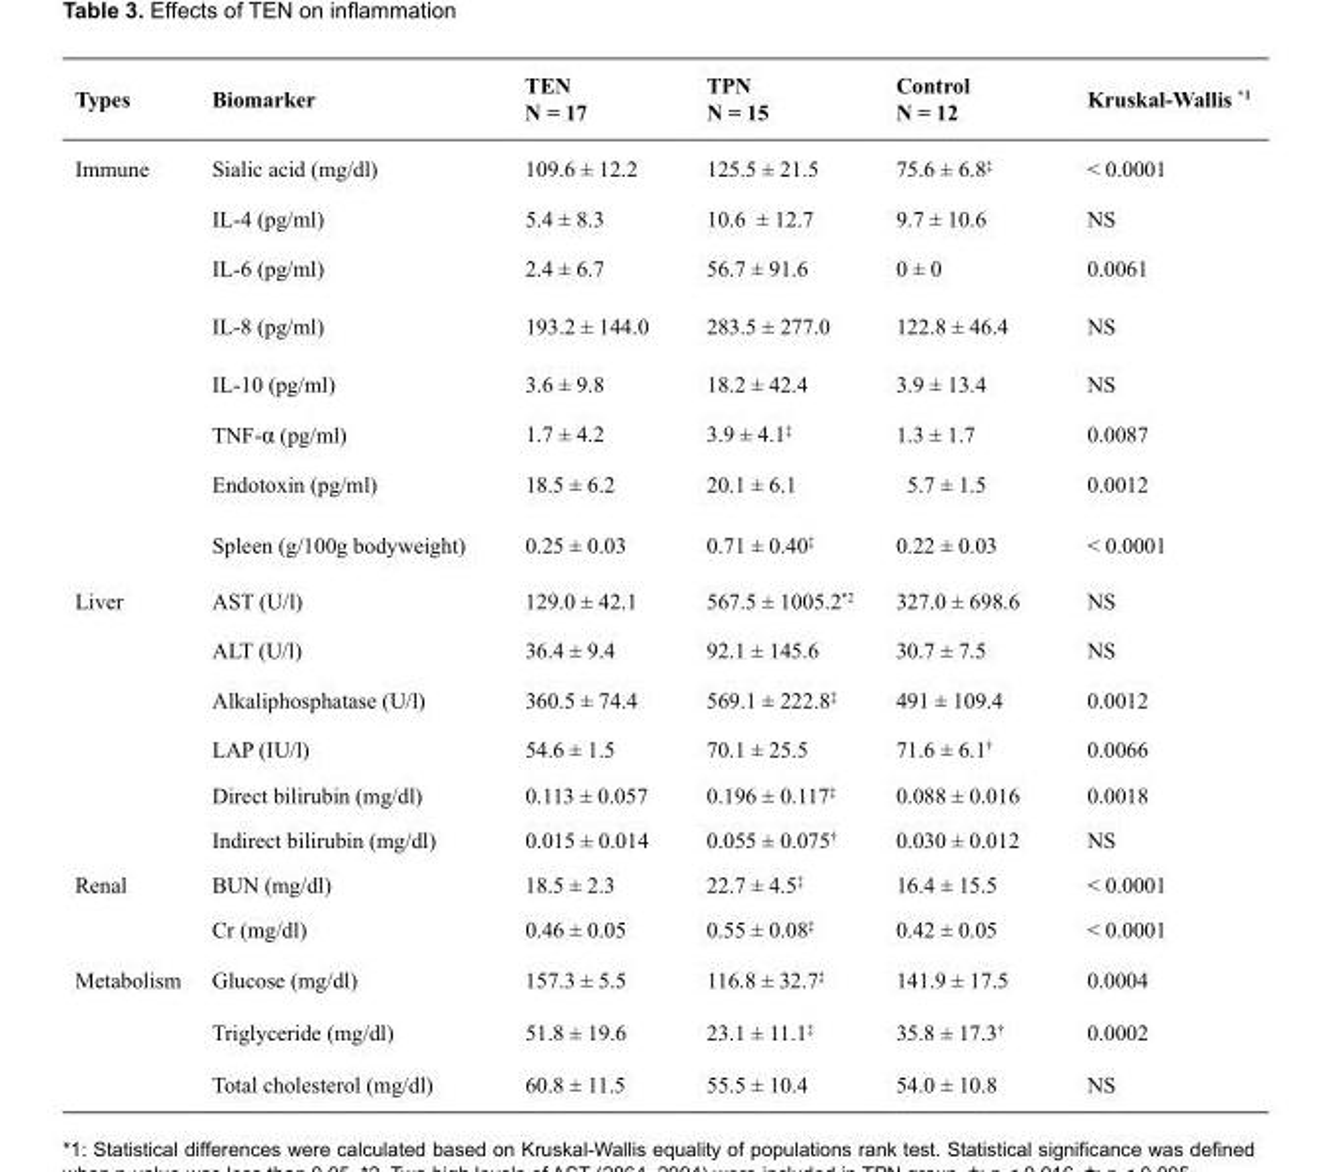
<table><thead><tr><td>Types</td><td>Biomarker</td><td>TEN N = 17</td><td>TPN N = 15</td><td>Control N = 12</td><td>Kruskal-Wallis <sup>*1</sup></td></tr></thead><tbody><tr><td rowspan="8">Immune</td><td>Sialic acid (mg/dl)</td><td>109.6 ± 12.2</td><td>125.5 ± 21.5</td><td>75.6 ± 6.8<sup>‡</sup></td><td>&lt; 0.0001</td></tr><tr><td>IL-4 (pg/ml)</td><td>5.4 ± 8.3</td><td>10.6 ± 12.7</td><td>9.7 ± 10.6</td><td>NS</td></tr><tr><td>IL-6 (pg/ml)</td><td>2.4 ± 6.7</td><td>56.7 ± 91.6</td><td>0 ± 0</td><td>0.0061</td></tr><tr><td>IL-8 (pg/ml)</td><td>193.2 ± 144.0</td><td>283.5 ± 277.0</td><td>122.8 ± 46.4</td><td>NS</td></tr><tr><td>IL-10 (pg/ml)</td><td>3.6 ± 9.8</td><td>18.2 ± 42.4</td><td>3.9 ± 13.4</td><td>NS</td></tr><tr><td>TNF-α (pg/ml)</td><td>1.7 ± 4.2</td><td>3.9 ± 4.1<sup>‡</sup></td><td>1.3 ± 1.7</td><td>0.0087</td></tr><tr><td>Endotoxin (pg/ml)</td><td>18.5 ± 6.2</td><td>20.1 ± 6.1</td><td>5.7 ± 1.5</td><td>0.0012</td></tr><tr><td>Spleen (g/100g bodyweight)</td><td>0.25 ± 0.03</td><td>0.71 ± 0.40<sup>‡</sup></td><td>0.22 ± 0.03</td><td>&lt; 0.0001</td></tr><tr><td rowspan="6">Liver</td><td>AST (U/l)</td><td>129.0 ± 42.1</td><td>567.5 ± 1005.2<sup>*2</sup></td><td>327.0 ± 698.6</td><td>NS</td></tr><tr><td>ALT (U/l)</td><td>36.4 ± 9.4</td><td>92.1 ± 145.6</td><td>30.7 ± 7.5</td><td>NS</td></tr><tr><td>Alkaliphosphatase (U/l)</td><td>360.5 ± 74.4</td><td>569.1 ± 222.8<sup>‡</sup></td><td>491 ± 109.4</td><td>0.0012</td></tr><tr><td>LAP (IU/l)</td><td>54.6 ± 1.5</td><td>70.1 ± 25.5</td><td>71.6 ± 6.1<sup>†</sup></td><td>0.0066</td></tr><tr><td>Direct bilirubin (mg/dl)</td><td>0.113 ± 0.057</td><td>0.196 ± 0.117<sup>‡</sup></td><td>0.088 ± 0.016</td><td>0.0018</td></tr><tr><td>Indirect bilirubin (mg/dl)</td><td>0.015 ± 0.014</td><td>0.055 ± 0.075<sup>†</sup></td><td>0.030 ± 0.012</td><td>NS</td></tr><tr><td rowspan="2">Renal</td><td>BUN (mg/dl)</td><td>18.5 ± 2.3</td><td>22.7 ± 4.5<sup>‡</sup></td><td>16.4 ± 15.5</td><td>&lt; 0.0001</td></tr><tr><td>Cr (mg/dl)</td><td>0.46 ± 0.05</td><td>0.55 ± 0.08<sup>‡</sup></td><td>0.42 ± 0.05</td><td>&lt; 0.0001</td></tr><tr><td rowspan="3">Metabolism</td><td>Glucose (mg/dl)</td><td>157.3 ± 5.5</td><td>116.8 ± 32.7<sup>‡</sup></td><td>141.9 ± 17.5</td><td>0.0004</td></tr><tr><td>Triglyceride (mg/dl)</td><td>51.8 ± 19.6</td><td>23.1 ± 11.1<sup>‡</sup></td><td>35.8 ± 17.3<sup>†</sup></td><td>0.0002</td></tr><tr><td>Total cholesterol (mg/dl)</td><td>60.8 ± 11.5</td><td>55.5 ± 10.4</td><td>54.0 ± 10.8</td><td>NS</td></tr></tbody></table>